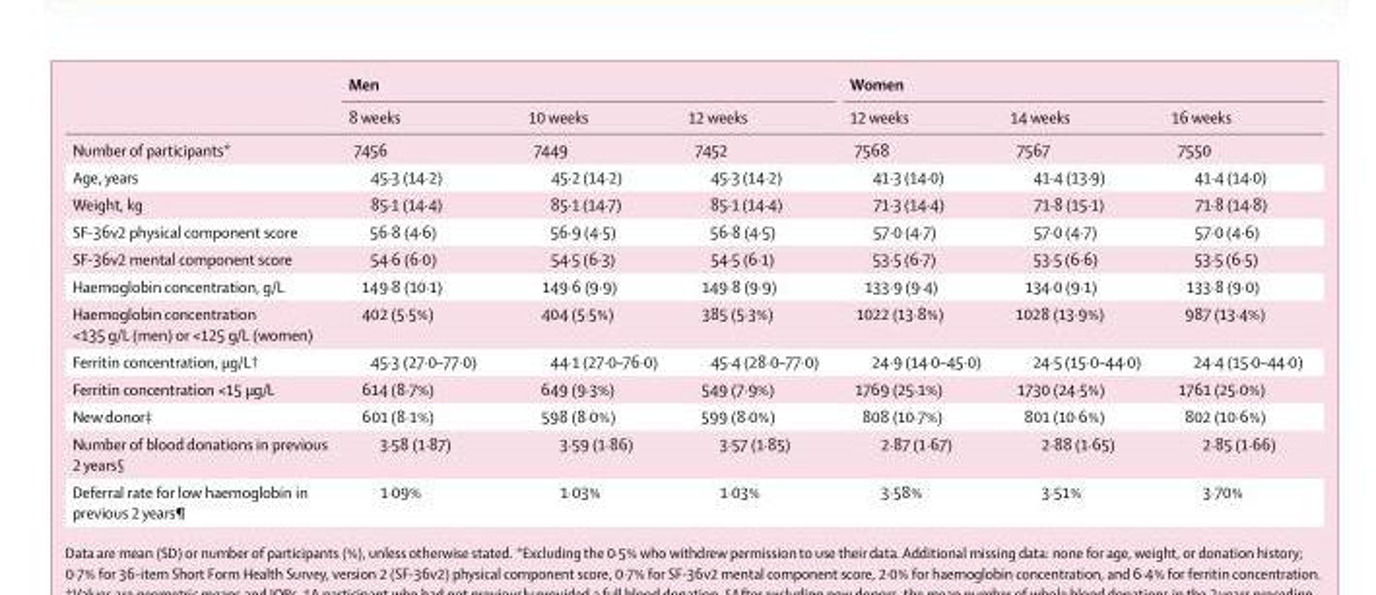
<table><thead><tr><td rowspan="2"></td><td colspan="3">Men</td><td colspan="3">Women</td></tr><tr><td>8 weeks</td><td>10 weeks</td><td>12 weeks</td><td>12 weeks</td><td>14 weeks</td><td>16 weeks</td></tr></thead><tbody><tr><td>Number of participants*</td><td>7456</td><td>7449</td><td>7452</td><td>7568</td><td>7567</td><td>7550</td></tr><tr><td>Age, years</td><td>45·3 (14·2)</td><td>45·2 (14·2)</td><td>45·3 (14·2)</td><td>41·3 (14·0)</td><td>41·4 (13·9)</td><td>41·4 (14·0)</td></tr><tr><td>Weight, kg</td><td>85·1 (14·4)</td><td>85·1 (14·7)</td><td>85·1 (14·4)</td><td>71·3 (14·4)</td><td>71·8 (15·1)</td><td>71·8 (14·8)</td></tr><tr><td>SF-36v2 physical component score</td><td>56·8 (4·6)</td><td>56·9 (4·5)</td><td>56·8 (4·5)</td><td>57·0 (4·7)</td><td>57·0 (4·7)</td><td>57·0 (4·6)</td></tr><tr><td>SF-36v2 mental component score</td><td>54·6 (6·0)</td><td>54·5 (6·3)</td><td>54·5 (6·1)</td><td>53·5 (6·7)</td><td>53·5 (6·6)</td><td>53·5 (6·5)</td></tr><tr><td>Haemoglobin concentration, g/L</td><td>149·8 (10·1)</td><td>149·6 (9·9)</td><td>149·8 (9·9)</td><td>133·9 (9·4)</td><td>134·0 (9·1)</td><td>133·8 (9·0)</td></tr><tr><td>Haemoglobin concentration &lt;135 g/L (men) or &lt;125 g/L (women)</td><td>402 (5·5%)</td><td>404 (5·5%)</td><td>385 (5·3%)</td><td>1022 (13·8%)</td><td>1028 (13·9%)</td><td>987 (13·4%)</td></tr><tr><td>Ferritin concentration, µg/L†</td><td>45·3 (27·0–77·0)</td><td>44·1 (27·0–76·0)</td><td>45·4 (28·0–77·0)</td><td>24·9 (14·0–45·0)</td><td>24·5 (15·0–44·0)</td><td>24·4 (15·0–44·0)</td></tr><tr><td>Ferritin concentration &lt;15 µg/L</td><td>614 (8·7%)</td><td>649 (9·3%)</td><td>549 (7·9%)</td><td>1769 (25·1%)</td><td>1730 (24·5%)</td><td>1761 (25·0%)</td></tr><tr><td>New donor‡</td><td>601 (8·1%)</td><td>598 (8·0%)</td><td>599 (8·0%)</td><td>808 (10·7%)</td><td>801 (10·6%)</td><td>802 (10·6%)</td></tr><tr><td>Number of blood donations in previous 2 years§</td><td>3·58 (1·87)</td><td>3·59 (1·86)</td><td>3·57 (1·85)</td><td>2·87 (1·67)</td><td>2·88 (1·65)</td><td>2·85 (1·66)</td></tr><tr><td>Deferral rate for low haemoglobin in previous 2 years¶</td><td>1·09%</td><td>1·03%</td><td>1·03%</td><td>3·58%</td><td>3·51%</td><td>3·70%</td></tr></tbody></table>